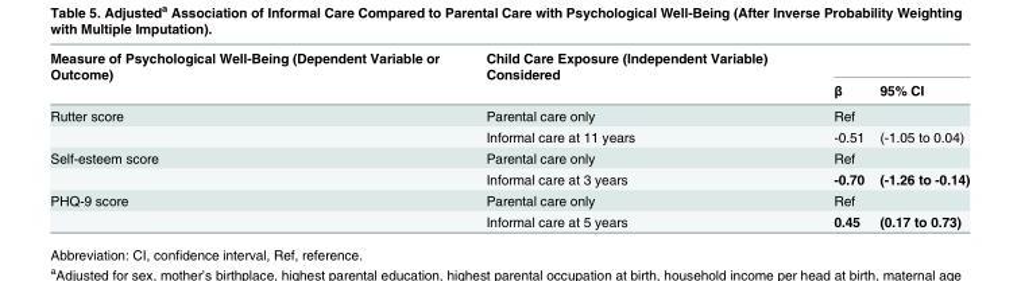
<table><thead><tr><td rowspan="2">Measure of Psychological Well-Being (Dependent Variable or Outcome)</td><td rowspan="2">Child Care Exposure (Independent Variable) Considered</td><td rowspan="2">β</td><td rowspan="2">95% CI</td></tr><tr></tr></thead><tbody><tr><td rowspan="2">Rutter score</td><td>Parental care only</td><td colspan="2">Ref</td></tr><tr><td>Informal care at 11 years</td><td>-0.51</td><td>(-1.05 to 0.04)</td></tr><tr><td rowspan="2">Self-esteem score</td><td>Parental care only</td><td>Ref</td><td></td></tr><tr><td>Informal care at 3 years</td><td>-0.70</td><td>(-1.26 to -0.14)</td></tr><tr><td rowspan="2">PHQ-9 score</td><td>Parental care only</td><td>Ref</td><td></td></tr><tr><td>Informal care at 5 years</td><td>0.45</td><td>(0.17 to 0.73)</td></tr></tbody></table>